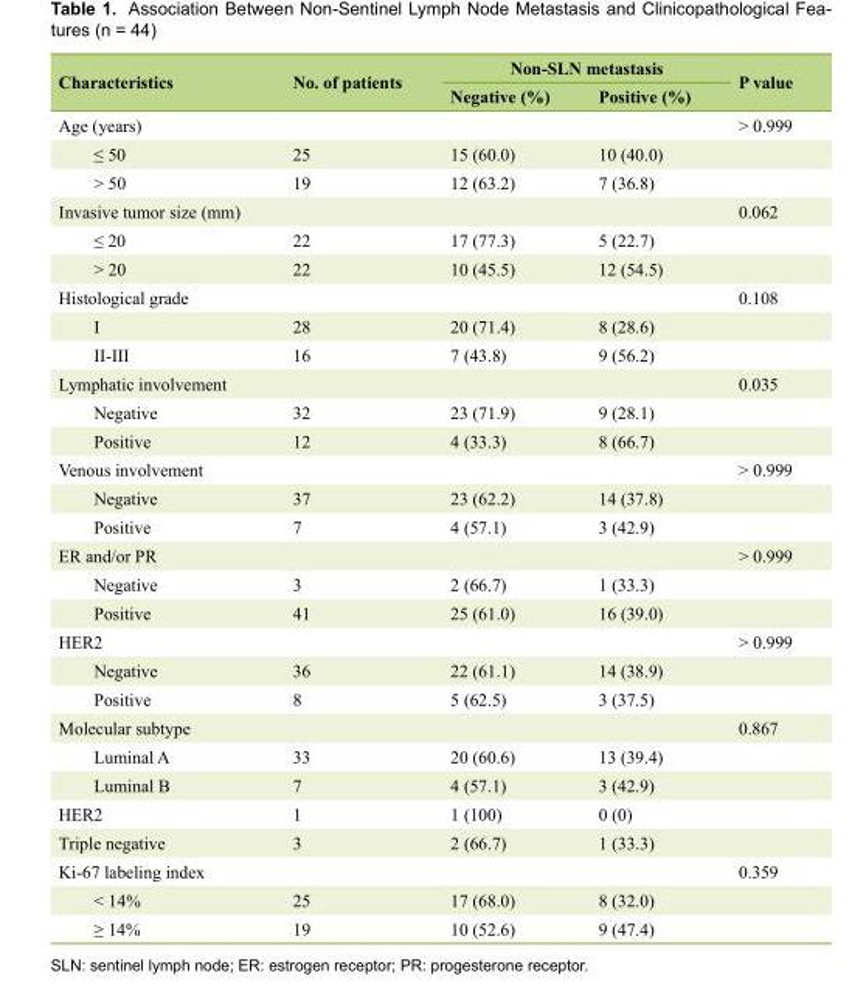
<table><thead><tr><td rowspan="2">Characteristics</td><td rowspan="2">No. of patients</td><td colspan="2">Non-SLN metastasis</td><td rowspan="2">P value</td></tr><tr><td>Negative (%)</td><td>Positive (%)</td></tr></thead><tbody><tr><td>Age (years)</td><td></td><td></td><td></td><td>&gt; 0.999</td></tr><tr><td>≤ 50</td><td>25</td><td>15 (60.0)</td><td>10 (40.0)</td><td></td></tr><tr><td>&gt; 50</td><td>19</td><td>12 (63.2)</td><td>7 (36.8)</td><td></td></tr><tr><td>Invasive tumor size (mm)</td><td></td><td></td><td></td><td>0.062</td></tr><tr><td>≤ 20</td><td>22</td><td>17 (77.3)</td><td>5 (22.7)</td><td></td></tr><tr><td>&gt; 20</td><td>22</td><td>10 (45.5)</td><td>12 (54.5)</td><td></td></tr><tr><td>Histological grade</td><td></td><td></td><td></td><td>0.108</td></tr><tr><td>I</td><td>28</td><td>20 (71.4)</td><td>8 (28.6)</td><td></td></tr><tr><td>II-III</td><td>16</td><td>7 (43.8)</td><td>9 (56.2)</td><td></td></tr><tr><td>Lymphatic involvement</td><td></td><td></td><td></td><td>0.035</td></tr><tr><td>Negative</td><td>32</td><td>23 (71.9)</td><td>9 (28.1)</td><td></td></tr><tr><td>Positive</td><td>12</td><td>4 (33.3)</td><td>8 (66.7)</td><td></td></tr><tr><td>Venous involvement</td><td></td><td></td><td></td><td>&gt; 0.999</td></tr><tr><td>Negative</td><td>37</td><td>23 (62.2)</td><td>14 (37.8)</td><td></td></tr><tr><td>Positive</td><td>7</td><td>4 (57.1)</td><td>3 (42.9)</td><td></td></tr><tr><td>ER and/or PR</td><td></td><td></td><td></td><td>&gt; 0.999</td></tr><tr><td>Negative</td><td>3</td><td>2 (66.7)</td><td>1 (33.3)</td><td></td></tr><tr><td>Positive</td><td>41</td><td>25 (61.0)</td><td>16 (39.0)</td><td></td></tr><tr><td>HER2</td><td></td><td></td><td></td><td>&gt; 0.999</td></tr><tr><td>Negative</td><td>36</td><td>22 (61.1)</td><td>14 (38.9)</td><td></td></tr><tr><td>Positive</td><td>8</td><td>5 (62.5)</td><td>3 (37.5)</td><td></td></tr><tr><td>Molecular subtype</td><td></td><td></td><td></td><td>0.867</td></tr><tr><td>Luminal A</td><td>33</td><td>20 (60.6)</td><td>13 (39.4)</td><td></td></tr><tr><td>Luminal B</td><td>7</td><td>4 (57.1)</td><td>3 (42.9)</td><td></td></tr><tr><td>HER2</td><td>1</td><td>1 (100)</td><td>0 (0)</td><td></td></tr><tr><td>Triple negative</td><td>3</td><td>2 (66.7)</td><td>1 (33.3)</td><td></td></tr><tr><td>Ki-67 labeling index</td><td></td><td></td><td></td><td>0.359</td></tr><tr><td>&lt; 14%</td><td>25</td><td>17 (68.0)</td><td>8 (32.0)</td><td></td></tr><tr><td>≥ 14%</td><td>19</td><td>10 (52.6)</td><td>9 (47.4)</td><td></td></tr></tbody></table>